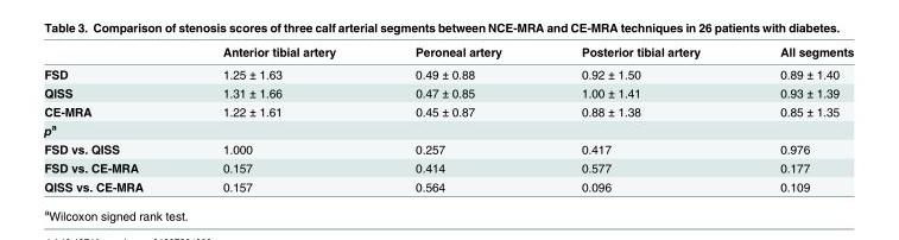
<table><thead><tr><td></td><td>Anterior tibial artery</td><td>Peroneal artery</td><td>Posterior tibial artery</td><td>All segments</td></tr></thead><tbody><tr><td>FSD</td><td>1.25 ± 1.63</td><td>0.49 ± 0.88</td><td>0.92 ± 1.50</td><td>0.89 ± 1.40</td></tr><tr><td>QISS</td><td>1.31 ± 1.66</td><td>0.47 ± 0.85</td><td>1.00 ± 1.41</td><td>0.93 ± 1.39</td></tr><tr><td>CE-MRA</td><td>1.22 ± 1.61</td><td>0.45 ± 0.87</td><td>0.88 ± 1.38</td><td>0.85 ± 1.35</td></tr><tr><td colspan="5">p<sup>a</sup></td></tr><tr><td>FSD vs. QISS</td><td>1.000</td><td>0.257</td><td>0.417</td><td>0.976</td></tr><tr><td>FSD vs. CE-MRA</td><td>0.157</td><td>0.414</td><td>0.577</td><td>0.177</td></tr><tr><td>QISS vs. CE-MRA</td><td>0.157</td><td>0.564</td><td>0.096</td><td>0.109</td></tr></tbody></table>